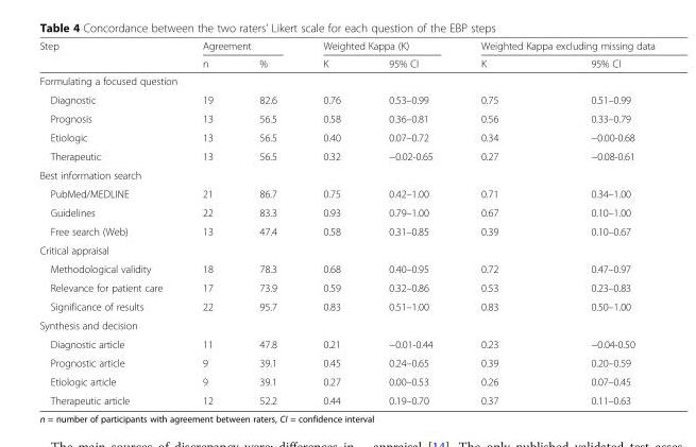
<table><thead><tr><td rowspan="2">Step</td><td colspan="2">Agreement</td><td colspan="2">Weighted Kappa (K)</td><td colspan="2">Weighted Kappa excluding missing data</td></tr><tr><td>n</td><td>%</td><td>K</td><td>95% CI</td><td>K</td><td>95% CI</td></tr></thead><tbody><tr><td colspan="7">Formulating a focused question</td></tr><tr><td>Diagnostic</td><td>19</td><td>82.6</td><td>0.76</td><td>0.53–0.99</td><td>0.75</td><td>0.51–0.99</td></tr><tr><td>Prognosis</td><td>13</td><td>56.5</td><td>0.58</td><td>0.36–0.81</td><td>0.56</td><td>0.33–0.79</td></tr><tr><td>Etiologic</td><td>13</td><td>56.5</td><td>0.40</td><td>0.07–0.72</td><td>0.34</td><td>−0.00-0.68</td></tr><tr><td>Therapeutic</td><td>13</td><td>56.5</td><td>0.32</td><td>−0.02-0.65</td><td>0.27</td><td>−0.08-0.61</td></tr><tr><td colspan="7">Best information search</td></tr><tr><td>PubMed/MEDLINE</td><td>21</td><td>86.7</td><td>0.75</td><td>0.42–1.00</td><td>0.71</td><td>0.34–1.00</td></tr><tr><td>Guidelines</td><td>22</td><td>83.3</td><td>0.93</td><td>0.79–1.00</td><td>0.67</td><td>0.10–1.00</td></tr><tr><td>Free search (Web)</td><td>13</td><td>47.4</td><td>0.58</td><td>0.31–0.85</td><td>0.39</td><td>0.10–0.67</td></tr><tr><td colspan="7">Critical appraisal</td></tr><tr><td>Methodological validity</td><td>18</td><td>78.3</td><td>0.68</td><td>0.40–0.95</td><td>0.72</td><td>0.47–0.97</td></tr><tr><td>Relevance for patient care</td><td>17</td><td>73.9</td><td>0.59</td><td>0.32–0.86</td><td>0.53</td><td>0.23–0.83</td></tr><tr><td>Significance of results</td><td>22</td><td>95.7</td><td>0.83</td><td>0.51–1.00</td><td>0.83</td><td>0.50–1.00</td></tr><tr><td colspan="7">Synthesis and decision</td></tr><tr><td>Diagnostic article</td><td>11</td><td>47.8</td><td>0.21</td><td>−0.01-0.44</td><td>0.23</td><td>−0.04-0.50</td></tr><tr><td>Prognostic article</td><td>9</td><td>39.1</td><td>0.45</td><td>0.24–0.65</td><td>0.39</td><td>0.20–0.59</td></tr><tr><td>Etiologic article</td><td>9</td><td>39.1</td><td>0.27</td><td>0.00–0.53</td><td>0.26</td><td>0.07–0.45</td></tr><tr><td>Therapeutic article</td><td>12</td><td>52.2</td><td>0.44</td><td>0.19–0.70</td><td>0.37</td><td>0.11–0.63</td></tr></tbody></table>